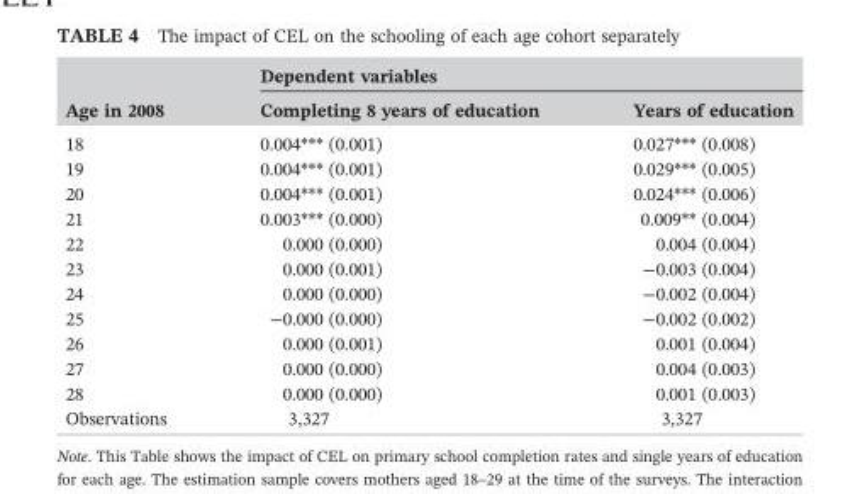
<table><thead><tr><td rowspan="2">Age in 2008</td><td colspan="2">Dependent variables</td></tr><tr><td>Completing 8 years of education</td><td>Years of education</td></tr></thead><tbody><tr><td>18</td><td>0.004*** (0.001)</td><td>0.027*** (0.008)</td></tr><tr><td>19</td><td>0.004*** (0.001)</td><td>0.029*** (0.005)</td></tr><tr><td>20</td><td>0.004*** (0.001)</td><td>0.024*** (0.006)</td></tr><tr><td>21</td><td>0.003*** (0.000)</td><td>0.009** (0.004)</td></tr><tr><td>22</td><td>0.000 (0.000)</td><td>0.004 (0.004)</td></tr><tr><td>23</td><td>0.000 (0.001)</td><td>−0.003 (0.004)</td></tr><tr><td>24</td><td>0.000 (0.000)</td><td>−0.002 (0.004)</td></tr><tr><td>25</td><td>−0.000 (0.000)</td><td>−0.002 (0.002)</td></tr><tr><td>26</td><td>0.000 (0.001)</td><td>0.001 (0.004)</td></tr><tr><td>27</td><td>0.000 (0.000)</td><td>0.004 (0.003)</td></tr><tr><td>28</td><td>0.000 (0.000)</td><td>0.001 (0.003)</td></tr><tr><td>Observations</td><td>3,327</td><td>3,327</td></tr></tbody></table>